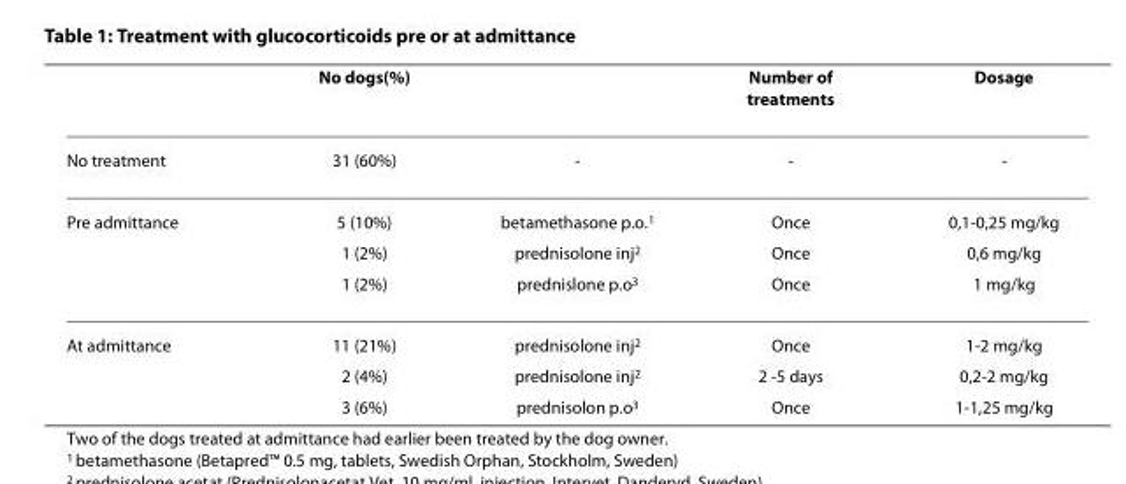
<table><thead><tr><td></td><td>No dogs(%)</td><td></td><td>Number of treatments</td><td>Dosage</td></tr></thead><tbody><tr><td>No treatment</td><td>31 (60%)</td><td>-</td><td>-</td><td>-</td></tr><tr><td rowspan="3">Pre admittance</td><td>5 (10%)</td><td>betamethasone p.o.<sup>1</sup></td><td>Once</td><td>0,1-0,25 mg/kg</td></tr><tr><td>1 (2%)</td><td>prednisolone inj<sup>2</sup></td><td>Once</td><td>0,6 mg/kg</td></tr><tr><td>1 (2%)</td><td>prednislone p.o<sup>3</sup></td><td>Once</td><td>1 mg/kg</td></tr><tr><td rowspan="3">At admittance</td><td>11 (21%)</td><td>prednisolone inj<sup>2</sup></td><td>Once</td><td>1-2 mg/kg</td></tr><tr><td>2 (4%)</td><td>prednisolone inj<sup>2</sup></td><td>2 -5 days</td><td>0,2-2 mg/kg</td></tr><tr><td>3 (6%)</td><td>prednisolon p.o<sup>3</sup></td><td>Once</td><td>1-1,25 mg/kg</td></tr></tbody></table>